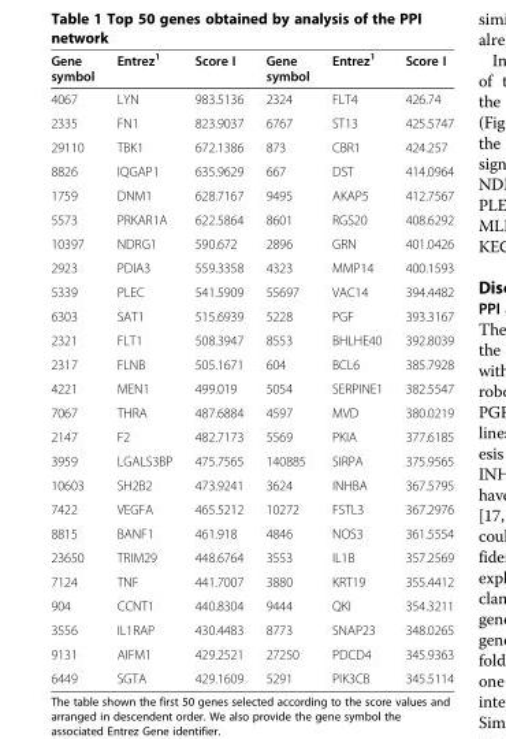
<table><thead><tr><td>Gene symbol</td><td>Entrez<sup>1</sup></td><td>Score I</td><td>Gene symbol</td><td>Entrez<sup>1</sup></td><td>Score I</td></tr></thead><tbody><tr><td>4067</td><td>LYN</td><td>983.5136</td><td>2324</td><td>FLT4</td><td>426.74</td></tr><tr><td>2335</td><td>FN1</td><td>823.9037</td><td>6767</td><td>ST13</td><td>425.5747</td></tr><tr><td>29110</td><td>TBK1</td><td>672.1386</td><td>873</td><td>CBR1</td><td>424.257</td></tr><tr><td>8826</td><td>IQGAP1</td><td>635.9629</td><td>667</td><td>DST</td><td>414.0964</td></tr><tr><td>1759</td><td>DNM1</td><td>628.7167</td><td>9495</td><td>AKAP5</td><td>412.7567</td></tr><tr><td>5573</td><td>PRKAR1A</td><td>622.5864</td><td>8601</td><td>RGS20</td><td>408.6292</td></tr><tr><td>10397</td><td>NDRG1</td><td>590.672</td><td>2896</td><td>GRN</td><td>401.0426</td></tr><tr><td>2923</td><td>PDIA3</td><td>559.3358</td><td>4323</td><td>MMP14</td><td>400.1593</td></tr><tr><td>5339</td><td>PLEC</td><td>541.5909</td><td>55697</td><td>VAC14</td><td>394.4482</td></tr><tr><td>6303</td><td>SAT1</td><td>515.6939</td><td>5228</td><td>PGF</td><td>393.3167</td></tr><tr><td>2321</td><td>FLT1</td><td>508.3947</td><td>8553</td><td>BHLHE40</td><td>392.8039</td></tr><tr><td>2317</td><td>FLNB</td><td>505.1671</td><td>604</td><td>BCL6</td><td>385.7928</td></tr><tr><td>4221</td><td>MEN1</td><td>499.019</td><td>5054</td><td>SERPINE1</td><td>382.5547</td></tr><tr><td>7067</td><td>THRA</td><td>487.6884</td><td>4597</td><td>MVD</td><td>380.0219</td></tr><tr><td>2147</td><td>F2</td><td>482.7173</td><td>5569</td><td>PKIA</td><td>377.6185</td></tr><tr><td>3959</td><td>LGALS3BP</td><td>475.7565</td><td>140885</td><td>SIRPA</td><td>375.9565</td></tr><tr><td>10603</td><td>SH2B2</td><td>473.9241</td><td>3624</td><td>INHBA</td><td>367.5795</td></tr><tr><td>7422</td><td>VEGFA</td><td>465.5212</td><td>10272</td><td>FSTL3</td><td>367.2976</td></tr><tr><td>8815</td><td>BANF1</td><td>461.918</td><td>4846</td><td>NOS3</td><td>361.5554</td></tr><tr><td>23650</td><td>TRIM29</td><td>448.6764</td><td>3553</td><td>IL1B</td><td>357.2569</td></tr><tr><td>7124</td><td>TNF</td><td>441.7007</td><td>3880</td><td>KRT19</td><td>355.4412</td></tr><tr><td>904</td><td>CCNT1</td><td>440.8304</td><td>9444</td><td>QKI</td><td>354.3211</td></tr><tr><td>3556</td><td>IL1RAP</td><td>430.4483</td><td>8773</td><td>SNAP23</td><td>348.0265</td></tr><tr><td>9131</td><td>AIFM1</td><td>429.2521</td><td>27250</td><td>PDCD4</td><td>345.9363</td></tr><tr><td>6449</td><td>SGTA</td><td>429.1609</td><td>5291</td><td>PIK3CB</td><td>345.5114</td></tr></tbody></table>